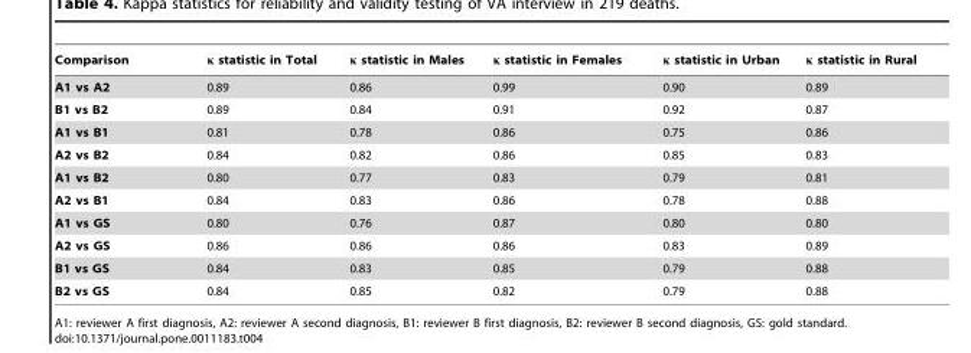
<table><thead><tr><td>Comparison</td><td>κ statistic in Total</td><td>κ statistic in Males</td><td>κ statistic in Females</td><td>κ statistic in Urban</td><td>κ statistic in Rural</td></tr></thead><tbody><tr><td>A1 vs A2</td><td>0.89</td><td>0.86</td><td>0.99</td><td>0.90</td><td>0.89</td></tr><tr><td>B1 vs B2</td><td>0.89</td><td>0.84</td><td>0.91</td><td>0.92</td><td>0.87</td></tr><tr><td>A1 vs B1</td><td>0.81</td><td>0.78</td><td>0.86</td><td>0.75</td><td>0.86</td></tr><tr><td>A2 vs B2</td><td>0.84</td><td>0.82</td><td>0.86</td><td>0.85</td><td>0.83</td></tr><tr><td>A1 vs B2</td><td>0.80</td><td>0.77</td><td>0.83</td><td>0.79</td><td>0.81</td></tr><tr><td>A2 vs B1</td><td>0.84</td><td>0.83</td><td>0.86</td><td>0.78</td><td>0.88</td></tr><tr><td>A1 vs GS</td><td>0.80</td><td>0.76</td><td>0.87</td><td>0.80</td><td>0.80</td></tr><tr><td>A2 vs GS</td><td>0.86</td><td>0.86</td><td>0.86</td><td>0.83</td><td>0.89</td></tr><tr><td>B1 vs GS</td><td>0.84</td><td>0.83</td><td>0.85</td><td>0.79</td><td>0.88</td></tr><tr><td>B2 vs GS</td><td>0.84</td><td>0.85</td><td>0.82</td><td>0.79</td><td>0.88</td></tr></tbody></table>